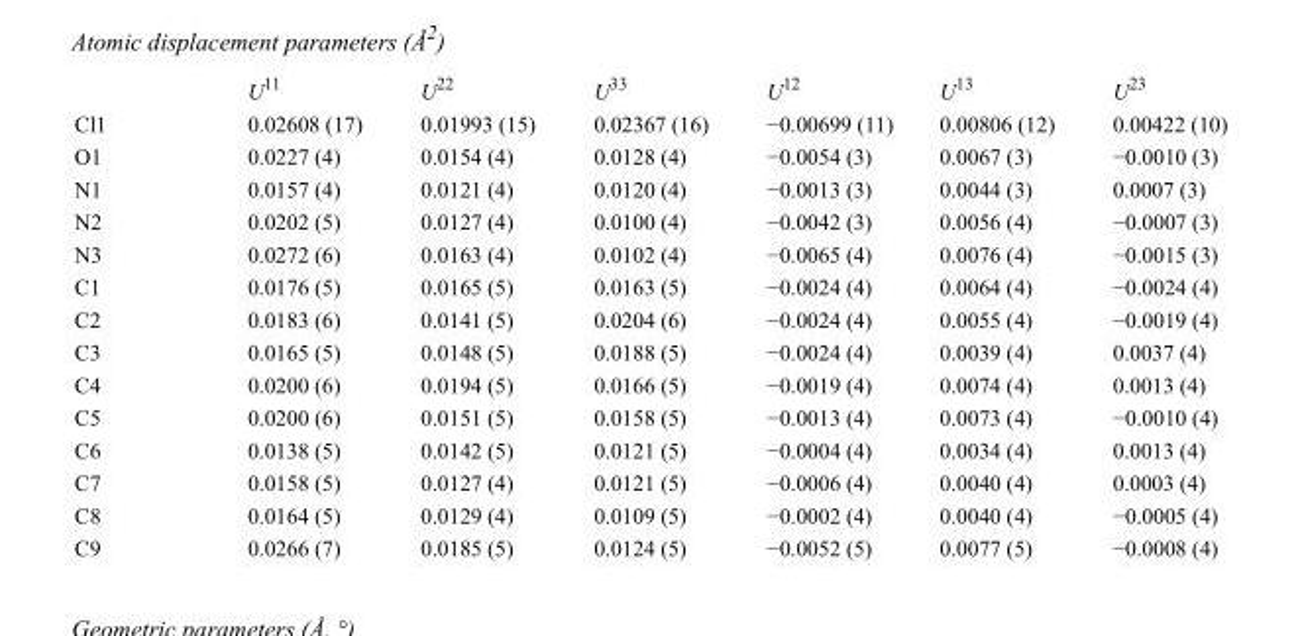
<table><thead><tr><td></td><td>U<sup>11</sup></td><td>U<sup>22</sup></td><td>U<sup>33</sup></td><td>U<sup>12</sup></td><td>U<sup>13</sup></td><td>U<sup>23</sup></td></tr></thead><tbody><tr><td>Cl1</td><td>0.02608 (17)</td><td>0.01993 (15)</td><td>0.02367 (16)</td><td>−0.00699 (11)</td><td>0.00806 (12)</td><td>0.00422 (10)</td></tr><tr><td>O1</td><td>0.0227 (4)</td><td>0.0154 (4)</td><td>0.0128 (4)</td><td>−0.0054 (3)</td><td>0.0067 (3)</td><td>−0.0010 (3)</td></tr><tr><td>N1</td><td>0.0157 (4)</td><td>0.0121 (4)</td><td>0.0120 (4)</td><td>−0.0013 (3)</td><td>0.0044 (3)</td><td>0.0007 (3)</td></tr><tr><td>N2</td><td>0.0202 (5)</td><td>0.0127 (4)</td><td>0.0100 (4)</td><td>−0.0042 (3)</td><td>0.0056 (4)</td><td>−0.0007 (3)</td></tr><tr><td>N3</td><td>0.0272 (6)</td><td>0.0163 (4)</td><td>0.0102 (4)</td><td>−0.0065 (4)</td><td>0.0076 (4)</td><td>−0.0015 (3)</td></tr><tr><td>C1</td><td>0.0176 (5)</td><td>0.0165 (5)</td><td>0.0163 (5)</td><td>−0.0024 (4)</td><td>0.0064 (4)</td><td>−0.0024 (4)</td></tr><tr><td>C2</td><td>0.0183 (6)</td><td>0.0141 (5)</td><td>0.0204 (6)</td><td>−0.0024 (4)</td><td>0.0055 (4)</td><td>−0.0019 (4)</td></tr><tr><td>C3</td><td>0.0165 (5)</td><td>0.0148 (5)</td><td>0.0188 (5)</td><td>−0.0024 (4)</td><td>0.0039 (4)</td><td>0.0037 (4)</td></tr><tr><td>C4</td><td>0.0200 (6)</td><td>0.0194 (5)</td><td>0.0166 (5)</td><td>−0.0019 (4)</td><td>0.0074 (4)</td><td>0.0013 (4)</td></tr><tr><td>C5</td><td>0.0200 (6)</td><td>0.0151 (5)</td><td>0.0158 (5)</td><td>−0.0013 (4)</td><td>0.0073 (4)</td><td>−0.0010 (4)</td></tr><tr><td>C6</td><td>0.0138 (5)</td><td>0.0142 (5)</td><td>0.0121 (5)</td><td>−0.0004 (4)</td><td>0.0034 (4)</td><td>0.0013 (4)</td></tr><tr><td>C7</td><td>0.0158 (5)</td><td>0.0127 (4)</td><td>0.0121 (5)</td><td>−0.0006 (4)</td><td>0.0040 (4)</td><td>0.0003 (4)</td></tr><tr><td>C8</td><td>0.0164 (5)</td><td>0.0129 (4)</td><td>0.0109 (5)</td><td>−0.0002 (4)</td><td>0.0040 (4)</td><td>−0.0005 (4)</td></tr><tr><td>C9</td><td>0.0266 (7)</td><td>0.0185 (5)</td><td>0.0124 (5)</td><td>−0.0052 (5)</td><td>0.0077 (5)</td><td>−0.0008 (4)</td></tr></tbody></table>